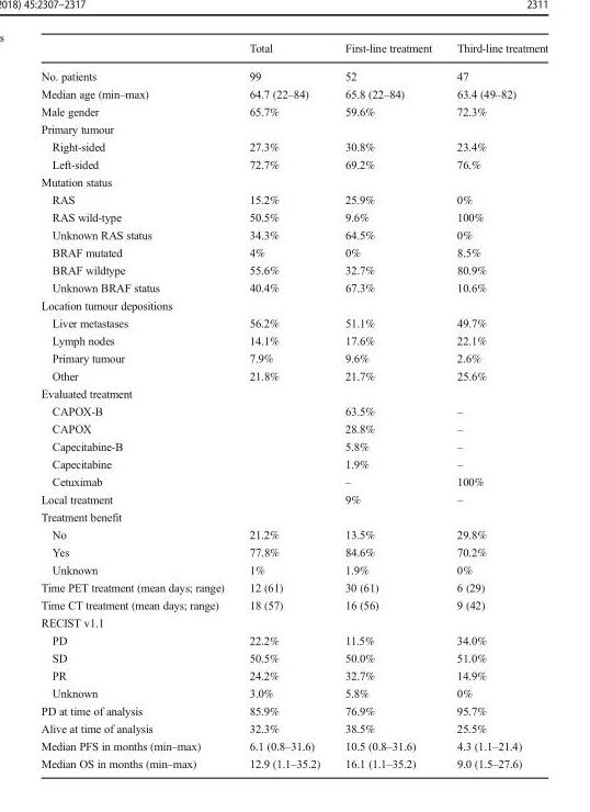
<table><thead><tr><td></td><td>Total</td><td>First-line treatment</td><td>Third-line treatment</td></tr></thead><tbody><tr><td>No. patients</td><td>99</td><td>52</td><td>47</td></tr><tr><td>Median age (min–max)</td><td>64.7 (22–84)</td><td>65.8 (22–84)</td><td>63.4 (49–82)</td></tr><tr><td>Male gender</td><td>65.7%</td><td>59.6%</td><td>72.3%</td></tr><tr><td colspan="4">Primary tumour</td></tr><tr><td>Right-sided</td><td>27.3%</td><td>30.8%</td><td>23.4%</td></tr><tr><td>Left-sided</td><td>72.7%</td><td>69.2%</td><td>76.%</td></tr><tr><td colspan="4">Mutation status</td></tr><tr><td>RAS</td><td>15.2%</td><td>25.9%</td><td>0%</td></tr><tr><td>RAS wild-type</td><td>50.5%</td><td>9.6%</td><td>100%</td></tr><tr><td>Unknown RAS status</td><td>34.3%</td><td>64.5%</td><td>0%</td></tr><tr><td>BRAF mutated</td><td>4%</td><td>0%</td><td>8.5%</td></tr><tr><td>BRAF wildtype</td><td>55.6%</td><td>32.7%</td><td>80.9%</td></tr><tr><td>Unknown BRAF status</td><td>40.4%</td><td>67.3%</td><td>10.6%</td></tr><tr><td colspan="4">Location tumour depositions</td></tr><tr><td>Liver metastases</td><td>56.2%</td><td>51.1%</td><td>49.7%</td></tr><tr><td>Lymph nodes</td><td>14.1%</td><td>17.6%</td><td>22.1%</td></tr><tr><td>Primary tumour</td><td>7.9%</td><td>9.6%</td><td>2.6%</td></tr><tr><td>Other</td><td>21.8%</td><td>21.7%</td><td>25.6%</td></tr><tr><td colspan="4">Evaluated treatment</td></tr><tr><td>CAPOX-B</td><td></td><td>63.5%</td><td>–</td></tr><tr><td>CAPOX</td><td></td><td>28.8%</td><td>–</td></tr><tr><td>Capecitabine-B</td><td></td><td>5.8%</td><td>–</td></tr><tr><td>Capecitabine</td><td></td><td>1.9%</td><td>–</td></tr><tr><td>Cetuximab</td><td></td><td>–</td><td>100%</td></tr><tr><td>Local treatment</td><td></td><td>9%</td><td>–</td></tr><tr><td colspan="4">Treatment benefit</td></tr><tr><td>No</td><td>21.2%</td><td>13.5%</td><td>29.8%</td></tr><tr><td>Yes</td><td>77.8%</td><td>84.6%</td><td>70.2%</td></tr><tr><td>Unknown</td><td>1%</td><td>1.9%</td><td>0%</td></tr><tr><td>Time PET treatment (mean days; range)</td><td>12 (61)</td><td>30 (61)</td><td>6 (29)</td></tr><tr><td>Time CT treatment (mean days; range)</td><td>18 (57)</td><td>16 (56)</td><td>9 (42)</td></tr><tr><td colspan="4">RECIST v1.1</td></tr><tr><td>PD</td><td>22.2%</td><td>11.5%</td><td>34.0%</td></tr><tr><td>SD</td><td>50.5%</td><td>50.0%</td><td>51.0%</td></tr><tr><td>PR</td><td>24.2%</td><td>32.7%</td><td>14.9%</td></tr><tr><td>Unknown</td><td>3.0%</td><td>5.8%</td><td>0%</td></tr><tr><td>PD at time of analysis</td><td>85.9%</td><td>76.9%</td><td>95.7%</td></tr><tr><td>Alive at time of analysis</td><td>32.3%</td><td>38.5%</td><td>25.5%</td></tr><tr><td>Median PFS in months (min–max)</td><td>6.1 (0.8–31.6)</td><td>10.5 (0.8–31.6)</td><td>4.3 (1.1–21.4)</td></tr><tr><td>Median OS in months (min–max)</td><td>12.9 (1.1–35.2)</td><td>16.1 (1.1–35.2)</td><td>9.0 (1.5–27.6)</td></tr></tbody></table>